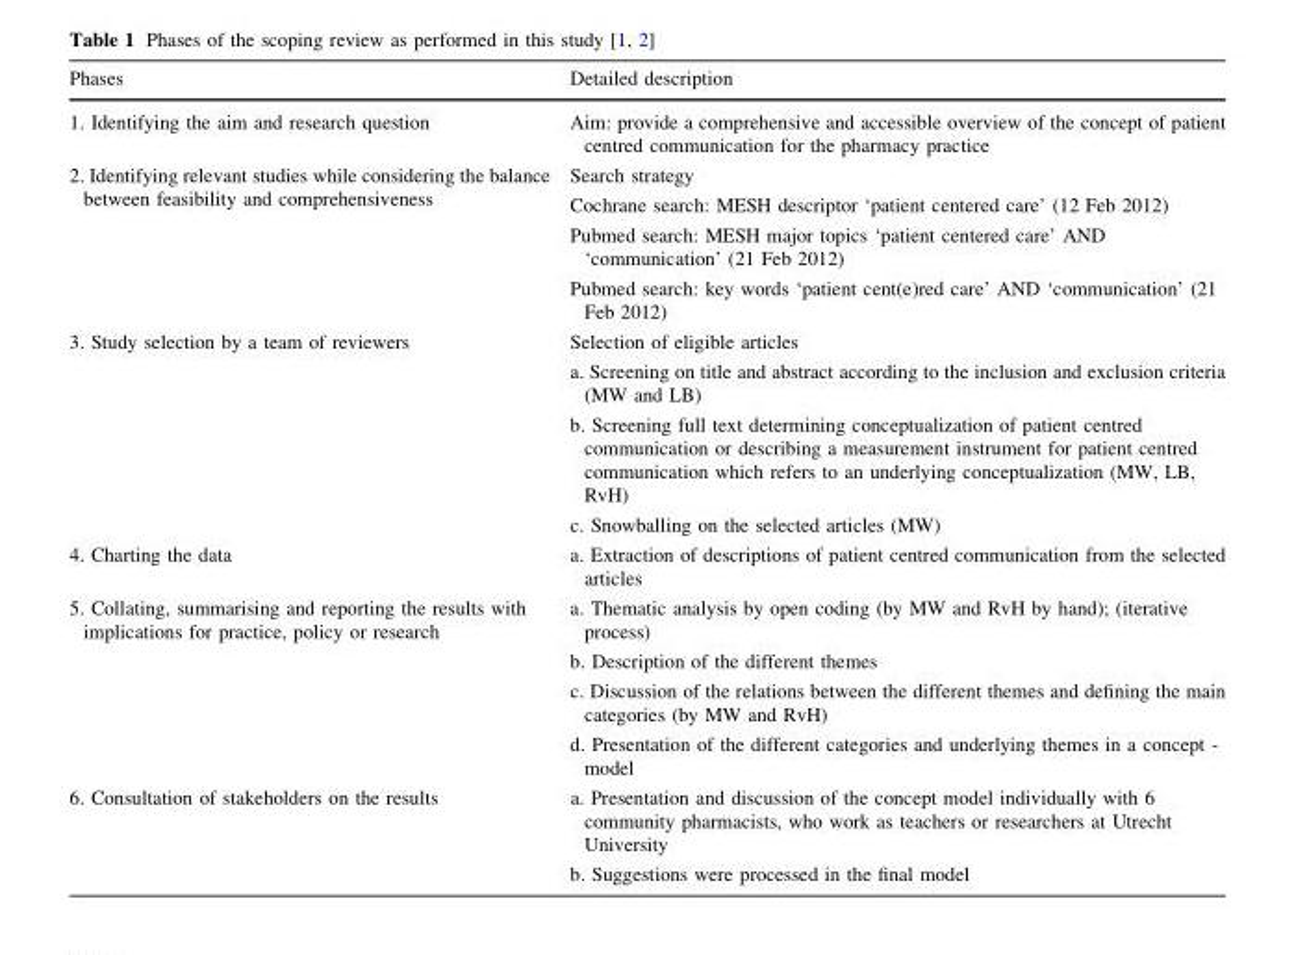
<table><thead><tr><td>Phases</td><td>Detailed description</td></tr></thead><tbody><tr><td>1. Identifying the aim and research question</td><td>Aim: provide a comprehensive and accessible overview of the concept of patient centred communication for the pharmacy practice</td></tr><tr><td>2. Identifying relevant studies while considering the balance between feasibility and comprehensiveness</td><td>Search strategy Cochrane search: MESH descriptor ‘patient centered care’ (12 Feb 2012) Pubmed search: MESH major topics ‘patient centered care’ AND ‘communication’ (21 Feb 2012) Pubmed search: key words ‘patient cent(e)red care’ AND ‘communication’ (21 Feb 2012)</td></tr><tr><td>3. Study selection by a team of reviewers</td><td>Selection of eligible articles a. Screening on title and abstract according to the inclusion and exclusion criteria (MW and LB) b. Screening full text determining conceptualization of patient centred communication or describing a measurement instrument for patient centred communication which refers to an underlying conceptualization (MW, LB, RvH) c. Snowballing on the selected articles (MW)</td></tr><tr><td>4. Charting the data</td><td>a. Extraction of descriptions of patient centred communication from the selected articles</td></tr><tr><td>5. Collating, summarising and reporting the results with implications for practice, policy or research</td><td>a. Thematic analysis by open coding (by MW and RvH by hand); (iterative process) b. Description of the different themes c. Discussion of the relations between the different themes and defining the main categories (by MW and RvH) d. Presentation of the different categories and underlying themes in a concept - model</td></tr><tr><td>6. Consultation of stakeholders on the results</td><td>a. Presentation and discussion of the concept model individually with 6 community pharmacists, who work as teachers or researchers at Utrecht University b. Suggestions were processed in the final model</td></tr></tbody></table>